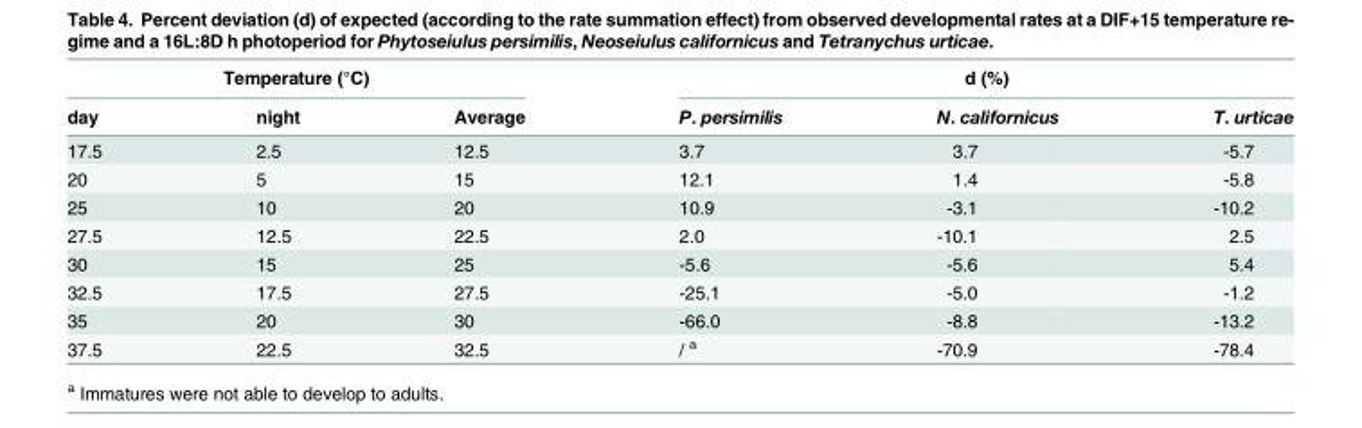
<table><thead><tr><td colspan="3">Temperature (°C)</td><td colspan="3">d (%)</td></tr><tr><td>day</td><td>night</td><td>Average</td><td>P. persimilis</td><td>N. californicus</td><td>T. urticae</td></tr></thead><tbody><tr><td>17.5</td><td>2.5</td><td>12.5</td><td>3.7</td><td>3.7</td><td>-5.7</td></tr><tr><td>20</td><td>5</td><td>15</td><td>12.1</td><td>1.4</td><td>-5.8</td></tr><tr><td>25</td><td>10</td><td>20</td><td>10.9</td><td>-3.1</td><td>-10.2</td></tr><tr><td>27.5</td><td>12.5</td><td>22.5</td><td>2.0</td><td>-10.1</td><td>2.5</td></tr><tr><td>30</td><td>15</td><td>25</td><td>-5.6</td><td>-5.6</td><td>5.4</td></tr><tr><td>32.5</td><td>17.5</td><td>27.5</td><td>-25.1</td><td>-5.0</td><td>-1.2</td></tr><tr><td>35</td><td>20</td><td>30</td><td>-66.0</td><td>-8.8</td><td>-13.2</td></tr><tr><td>37.5</td><td>22.5</td><td>32.5</td><td>/ <sup>a</sup></td><td>-70.9</td><td>-78.4</td></tr></tbody></table>